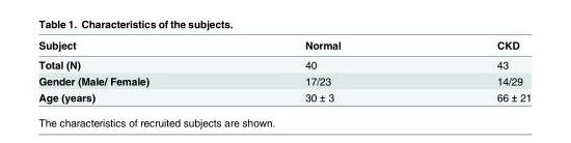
<table><thead><tr><td>Subject</td><td>Normal</td><td>CKD</td></tr></thead><tbody><tr><td>Total (N)</td><td>40</td><td>43</td></tr><tr><td>Gender (Male/ Female)</td><td>17/23</td><td>14/29</td></tr><tr><td>Age (years)</td><td>30 ± 3</td><td>66 ± 21</td></tr></tbody></table>